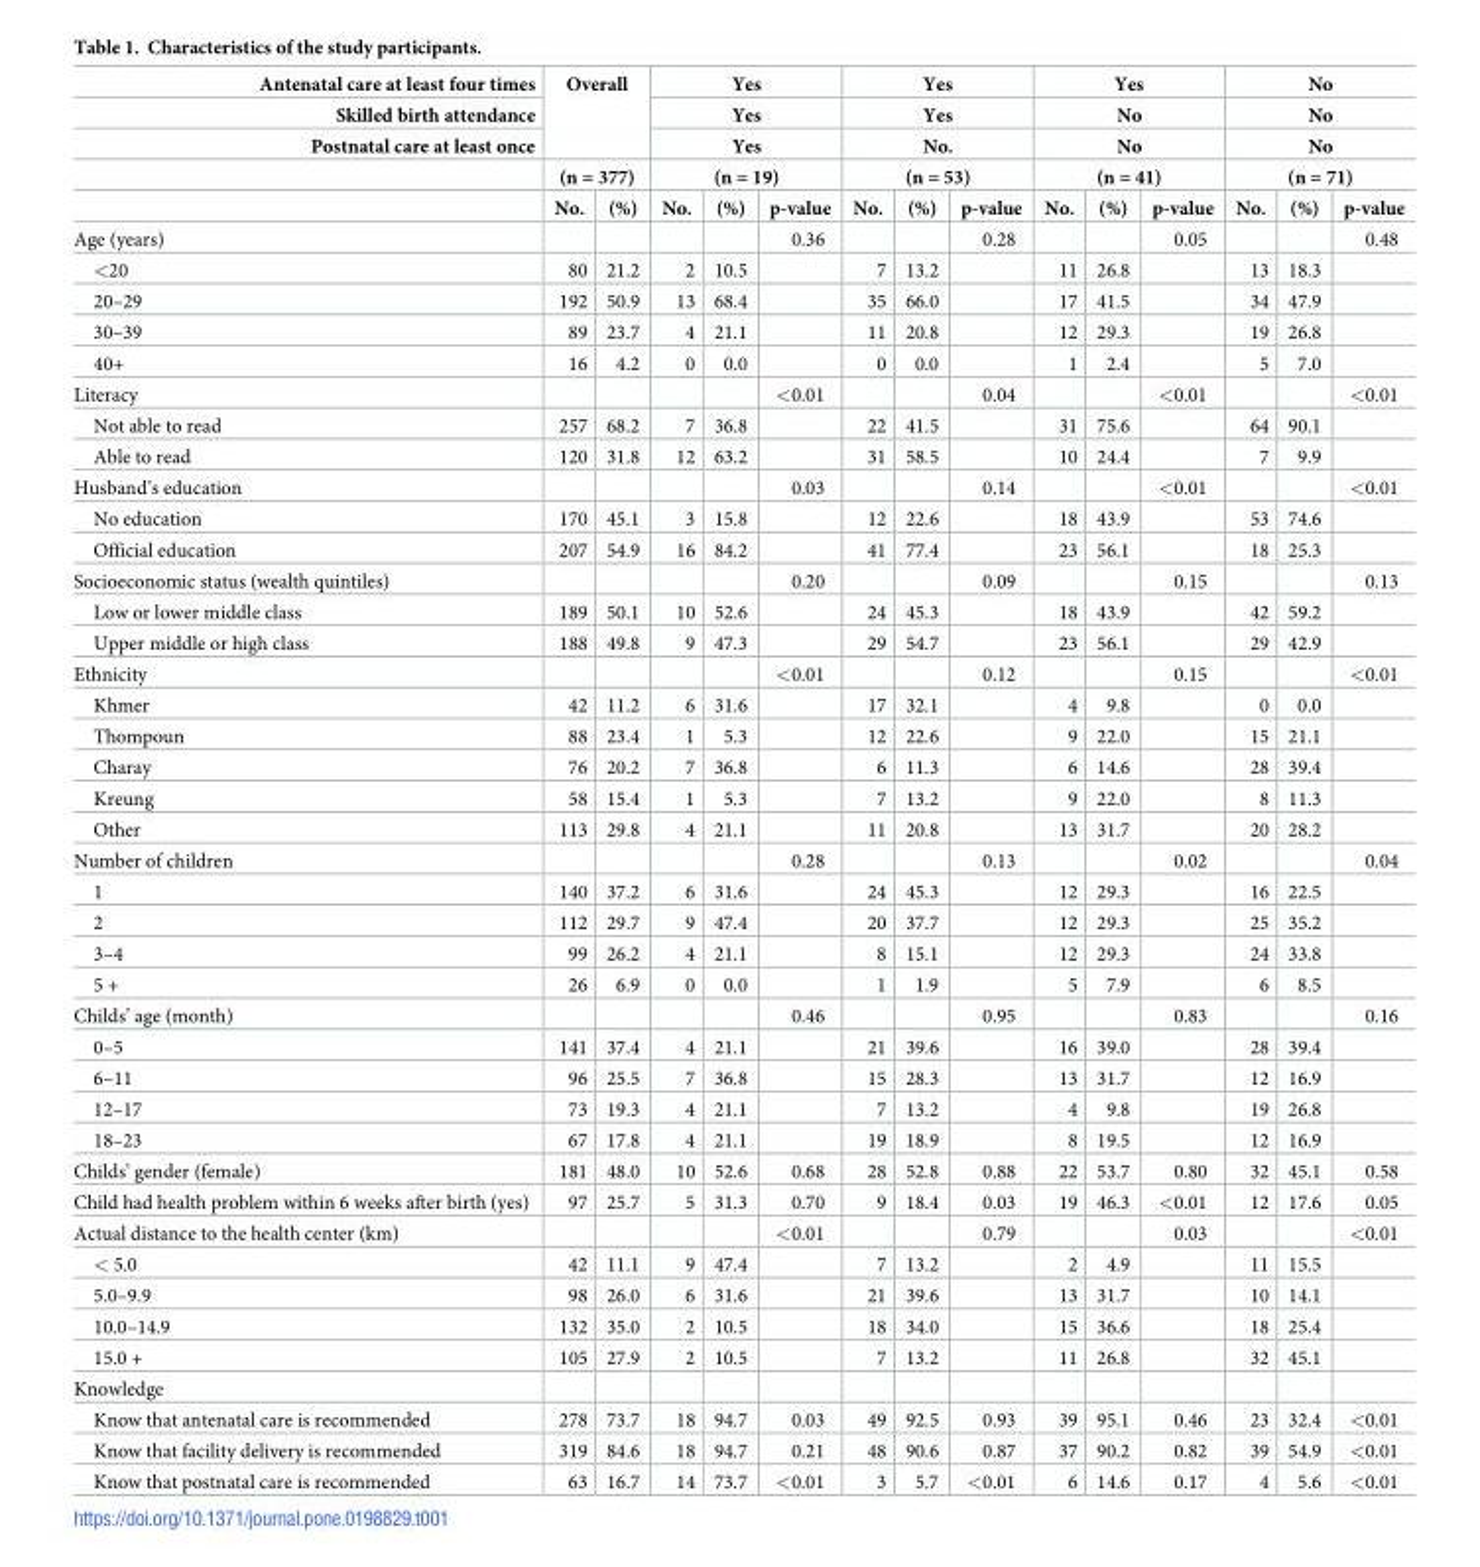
<table><thead><tr><td rowspan="5">Antenatal care at least four times Skilled birth attendance Postnatal care at least once</td><td rowspan="4" colspan="2">Overall (n = 377)</td><td rowspan="4" colspan="3">Yes Yes Yes (n = 19)</td><td rowspan="4" colspan="3">Yes Yes No. (n = 53)</td><td rowspan="4" colspan="3">Yes No No (n = 41)</td><td rowspan="4" colspan="3">No No No (n = 71)</td></tr><tr></tr><tr></tr><tr></tr><tr><td>No.</td><td>(%)</td><td>No.</td><td>(%)</td><td>p-value</td><td>No.</td><td>(%)</td><td>p-value</td><td>No.</td><td>(%)</td><td>p-value</td><td>No.</td><td>(%)</td><td>p-value</td></tr></thead><tbody><tr><td>Age (years)</td><td></td><td></td><td></td><td></td><td>0.36</td><td></td><td></td><td>0.28</td><td></td><td></td><td>0.05</td><td></td><td></td><td>0.48</td></tr><tr><td>&lt;20</td><td>80</td><td>21.2</td><td>2</td><td>10.5</td><td></td><td>7</td><td>13.2</td><td></td><td>11</td><td>26.8</td><td></td><td>13</td><td>18.3</td><td></td></tr><tr><td>20–29</td><td>192</td><td>50.9</td><td>13</td><td>68.4</td><td></td><td>35</td><td>66.0</td><td></td><td>17</td><td>41.5</td><td></td><td>34</td><td>47.9</td><td></td></tr><tr><td>30–39</td><td>89</td><td>23.7</td><td>4</td><td>21.1</td><td></td><td>11</td><td>20.8</td><td></td><td>12</td><td>29.3</td><td></td><td>19</td><td>26.8</td><td></td></tr><tr><td>40+</td><td>16</td><td>4.2</td><td>0</td><td>0.0</td><td></td><td>0</td><td>0.0</td><td></td><td>1</td><td>2.4</td><td></td><td>5</td><td>7.0</td><td></td></tr><tr><td>Literacy</td><td></td><td></td><td></td><td></td><td>&lt;0.01</td><td></td><td></td><td>0.04</td><td></td><td></td><td>&lt;0.01</td><td></td><td></td><td>&lt;0.01</td></tr><tr><td>Not able to read</td><td>257</td><td>68.2</td><td>7</td><td>36.8</td><td></td><td>22</td><td>41.5</td><td></td><td>31</td><td>75.6</td><td></td><td>64</td><td>90.1</td><td></td></tr><tr><td>Able to read</td><td>120</td><td>31.8</td><td>12</td><td>63.2</td><td></td><td>31</td><td>58.5</td><td></td><td>10</td><td>24.4</td><td></td><td>7</td><td>9.9</td><td></td></tr><tr><td>Husband’s education</td><td></td><td></td><td></td><td></td><td>0.03</td><td></td><td></td><td>0.14</td><td></td><td></td><td>&lt;0.01</td><td></td><td></td><td>&lt;0.01</td></tr><tr><td>No education</td><td>170</td><td>45.1</td><td>3</td><td>15.8</td><td></td><td>12</td><td>22.6</td><td></td><td>18</td><td>43.9</td><td></td><td>53</td><td>74.6</td><td></td></tr><tr><td>Official education</td><td>207</td><td>54.9</td><td>16</td><td>84.2</td><td></td><td>41</td><td>77.4</td><td></td><td>23</td><td>56.1</td><td></td><td>18</td><td>25.3</td><td></td></tr><tr><td>Socioeconomic status (wealth quintiles)</td><td></td><td></td><td></td><td></td><td>0.20</td><td></td><td></td><td>0.09</td><td></td><td></td><td>0.15</td><td></td><td></td><td>0.13</td></tr><tr><td>Low or lower middle class</td><td>189</td><td>50.1</td><td>10</td><td>52.6</td><td></td><td>24</td><td>45.3</td><td></td><td>18</td><td>43.9</td><td></td><td>42</td><td>59.2</td><td></td></tr><tr><td>Upper middle or high class</td><td>188</td><td>49.8</td><td>9</td><td>47.3</td><td></td><td>29</td><td>54.7</td><td></td><td>23</td><td>56.1</td><td></td><td>29</td><td>42.9</td><td></td></tr><tr><td>Ethnicity</td><td></td><td></td><td></td><td></td><td>&lt;0.01</td><td></td><td></td><td>0.12</td><td></td><td></td><td>0.15</td><td></td><td></td><td>&lt;0.01</td></tr><tr><td>Khmer</td><td>42</td><td>11.2</td><td>6</td><td>31.6</td><td></td><td>17</td><td>32.1</td><td></td><td>4</td><td>9.8</td><td></td><td>0</td><td>0.0</td><td></td></tr><tr><td>Thompoun</td><td>88</td><td>23.4</td><td>1</td><td>5.3</td><td></td><td>12</td><td>22.6</td><td></td><td>9</td><td>22.0</td><td></td><td>15</td><td>21.1</td><td></td></tr><tr><td>Charay</td><td>76</td><td>20.2</td><td>7</td><td>36.8</td><td></td><td>6</td><td>11.3</td><td></td><td>6</td><td>14.6</td><td></td><td>28</td><td>39.4</td><td></td></tr><tr><td>Kreung</td><td>58</td><td>15.4</td><td>1</td><td>5.3</td><td></td><td>7</td><td>13.2</td><td></td><td>9</td><td>22.0</td><td></td><td>8</td><td>11.3</td><td></td></tr><tr><td>Other</td><td>113</td><td>29.8</td><td>4</td><td>21.1</td><td></td><td>11</td><td>20.8</td><td></td><td>13</td><td>31.7</td><td></td><td>20</td><td>28.2</td><td></td></tr><tr><td>Number of children</td><td></td><td></td><td></td><td></td><td>0.28</td><td></td><td></td><td>0.13</td><td></td><td></td><td>0.02</td><td></td><td></td><td>0.04</td></tr><tr><td>1</td><td>140</td><td>37.2</td><td>6</td><td>31.6</td><td></td><td>24</td><td>45.3</td><td></td><td>12</td><td>29.3</td><td></td><td>16</td><td>22.5</td><td></td></tr><tr><td>2</td><td>112</td><td>29.7</td><td>9</td><td>47.4</td><td></td><td>20</td><td>37.7</td><td></td><td>12</td><td>29.3</td><td></td><td>25</td><td>35.2</td><td></td></tr><tr><td>3–4</td><td>99</td><td>26.2</td><td>4</td><td>21.1</td><td></td><td>8</td><td>15.1</td><td></td><td>12</td><td>29.3</td><td></td><td>24</td><td>33.8</td><td></td></tr><tr><td>5 +</td><td>26</td><td>6.9</td><td>0</td><td>0.0</td><td></td><td>1</td><td>1.9</td><td></td><td>5</td><td>7.9</td><td></td><td>6</td><td>8.5</td><td></td></tr><tr><td>Childs’ age (month)</td><td></td><td></td><td></td><td></td><td>0.46</td><td></td><td></td><td>0.95</td><td></td><td></td><td>0.83</td><td></td><td></td><td>0.16</td></tr><tr><td>0–5</td><td>141</td><td>37.4</td><td>4</td><td>21.1</td><td></td><td>21</td><td>39.6</td><td></td><td>16</td><td>39.0</td><td></td><td>28</td><td>39.4</td><td></td></tr><tr><td>6–11</td><td>96</td><td>25.5</td><td>7</td><td>36.8</td><td></td><td>15</td><td>28.3</td><td></td><td>13</td><td>31.7</td><td></td><td>12</td><td>16.9</td><td></td></tr><tr><td>12–17</td><td>73</td><td>19.3</td><td>4</td><td>21.1</td><td></td><td>7</td><td>13.2</td><td></td><td>4</td><td>9.8</td><td></td><td>19</td><td>26.8</td><td></td></tr><tr><td>18–23</td><td>67</td><td>17.8</td><td>4</td><td>21.1</td><td></td><td>19</td><td>18.9</td><td></td><td>8</td><td>19.5</td><td></td><td>12</td><td>16.9</td><td></td></tr><tr><td>Childs’ gender (female)</td><td>181</td><td>48.0</td><td>10</td><td>52.6</td><td>0.68</td><td>28</td><td>52.8</td><td>0.88</td><td>22</td><td>53.7</td><td>0.80</td><td>32</td><td>45.1</td><td>0.58</td></tr><tr><td>Child had health problem within 6 weeks after birth (yes)</td><td>97</td><td>25.7</td><td>5</td><td>31.3</td><td>0.70</td><td>9</td><td>18.4</td><td>0.03</td><td>19</td><td>46.3</td><td>&lt;0.01</td><td>12</td><td>17.6</td><td>0.05</td></tr><tr><td>Actual distance to the health center (km)</td><td></td><td></td><td></td><td></td><td>&lt;0.01</td><td></td><td></td><td>0.79</td><td></td><td></td><td>0.03</td><td></td><td></td><td>&lt;0.01</td></tr><tr><td>&lt; 5.0</td><td>42</td><td>11.1</td><td>9</td><td>47.4</td><td></td><td>7</td><td>13.2</td><td></td><td>2</td><td>4.9</td><td></td><td>11</td><td>15.5</td><td></td></tr><tr><td>5.0–9.9</td><td>98</td><td>26.0</td><td>6</td><td>31.6</td><td></td><td>21</td><td>39.6</td><td></td><td>13</td><td>31.7</td><td></td><td>10</td><td>14.1</td><td></td></tr><tr><td>10.0–14.9</td><td>132</td><td>35.0</td><td>2</td><td>10.5</td><td></td><td>18</td><td>34.0</td><td></td><td>15</td><td>36.6</td><td></td><td>18</td><td>25.4</td><td></td></tr><tr><td>15.0 +</td><td>105</td><td>27.9</td><td>2</td><td>10.5</td><td></td><td>7</td><td>13.2</td><td></td><td>11</td><td>26.8</td><td></td><td>32</td><td>45.1</td><td></td></tr><tr><td colspan="15">Knowledge</td></tr><tr><td>Know that antenatal care is recommended</td><td>278</td><td>73.7</td><td>18</td><td>94.7</td><td>0.03</td><td>49</td><td>92.5</td><td>0.93</td><td>39</td><td>95.1</td><td>0.46</td><td>23</td><td>32.4</td><td>&lt;0.01</td></tr><tr><td>Know that facility delivery is recommended</td><td>319</td><td>84.6</td><td>18</td><td>94.7</td><td>0.21</td><td>48</td><td>90.6</td><td>0.87</td><td>37</td><td>90.2</td><td>0.82</td><td>39</td><td>54.9</td><td>&lt;0.01</td></tr><tr><td>Know that postnatal care is recommended</td><td>63</td><td>16.7</td><td>14</td><td>73.7</td><td>&lt;0.01</td><td>3</td><td>5.7</td><td>&lt;0.01</td><td>6</td><td>14.6</td><td>0.17</td><td>4</td><td>5.6</td><td>&lt;0.01</td></tr></tbody></table>